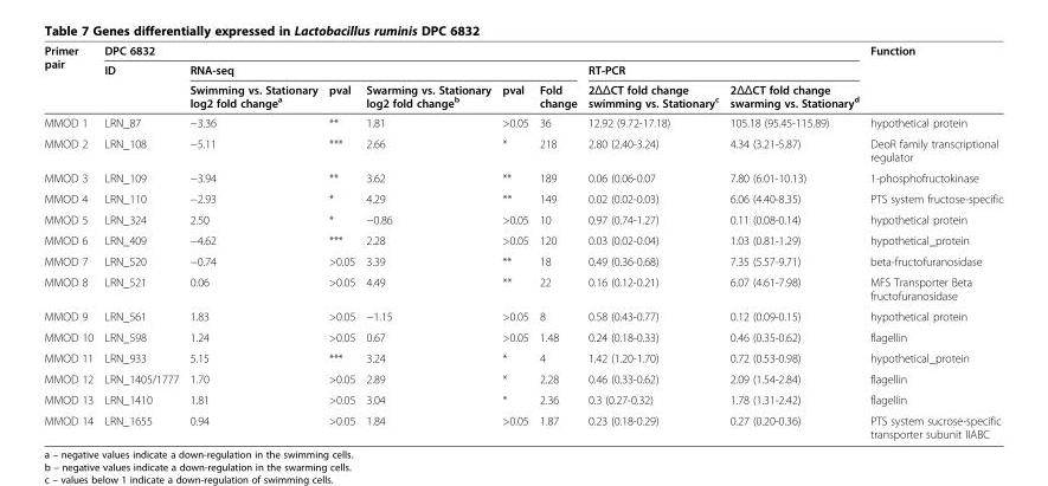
<table><thead><tr><td rowspan="3">Primer pair</td><td colspan="8">DPC 6832</td><td rowspan="3">Function</td></tr><tr><td rowspan="2">ID</td><td colspan="5">RNA-seq</td><td colspan="2">RT-PCR</td></tr><tr><td>Swimming vs. Stationary log2 fold change<sup>a</sup></td><td>pval</td><td>Swarming vs. Stationary log2 fold change<sup>b</sup></td><td>pval</td><td>Fold change</td><td>2ΔΔCT fold change swimming vs. Stationary<sup>c</sup></td><td>2ΔΔCT fold change swarming vs. Stationary<sup>d</sup></td></tr></thead><tbody><tr><td>MMOD 1</td><td>LRN_87</td><td>−3.36</td><td>**</td><td>1.81</td><td>&gt;0.05</td><td>36</td><td>12.92 (9.72-17.18)</td><td>105.18 (95.45-115.89)</td><td>hypothetical protein</td></tr><tr><td>MMOD 2</td><td>LRN_108</td><td>−5.11</td><td>***</td><td>2.66</td><td>*</td><td>218</td><td>2.80 (2.40-3.24)</td><td>4.34 (3.21-5.87)</td><td>DeoR family transcriptional regulator</td></tr><tr><td>MMOD 3</td><td>LRN_109</td><td>−3.94</td><td>**</td><td>3.62</td><td>**</td><td>189</td><td>0.06 (0.06-0.07</td><td>7.80 (6.01-10.13)</td><td>1-phosphofructokinase</td></tr><tr><td>MMOD 4</td><td>LRN_110</td><td>−2.93</td><td>*</td><td>4.29</td><td>**</td><td>149</td><td>0.02 (0.02-0.03)</td><td>6.06 (4.40-8.35)</td><td>PTS system fructose-specific</td></tr><tr><td>MMOD 5</td><td>LRN_324</td><td>2.50</td><td>*</td><td>−0.86</td><td>&gt;0.05</td><td>10</td><td>0.97 (0.74-1.27)</td><td>0.11 (0.08-0.14)</td><td>hypothetical protein</td></tr><tr><td>MMOD 6</td><td>LRN_409</td><td>−4.62</td><td>***</td><td>2.28</td><td>&gt;0.05</td><td>120</td><td>0.03 (0.02-0.04)</td><td>1.03 (0.81-1.29)</td><td>hypothetical_protein</td></tr><tr><td>MMOD 7</td><td>LRN_520</td><td>−0.74</td><td>&gt;0.05</td><td>3.39</td><td>**</td><td>18</td><td>0.49 (0.36-0.68)</td><td>7.35 (5.57-9.71)</td><td>beta-fructofuranosidase</td></tr><tr><td>MMOD 8</td><td>LRN_521</td><td>0.06</td><td>&gt;0.05</td><td>4.49</td><td>**</td><td>22</td><td>0.16 (0.12-0.21)</td><td>6.07 (4.61-7.98)</td><td>MFS Transporter Beta fructofuranosidase</td></tr><tr><td>MMOD 9</td><td>LRN_561</td><td>1.83</td><td>&gt;0.05</td><td>−1.15</td><td>&gt;0.05</td><td>8</td><td>0.58 (0.43-0.77)</td><td>0.12 (0.09-0.15)</td><td>hypothetical protein</td></tr><tr><td>MMOD 10</td><td>LRN_598</td><td>1.24</td><td>&gt;0.05</td><td>0.67</td><td>&gt;0.05</td><td>1.48</td><td>0.24 (0.18-0.33)</td><td>0.46 (0.35-0.62)</td><td>flagellin</td></tr><tr><td>MMOD 11</td><td>LRN_933</td><td>5.15</td><td>***</td><td>3.24</td><td>*</td><td>4</td><td>1.42 (1.20-1.70)</td><td>0.72 (0.53-0.98)</td><td>hypothetical_protein</td></tr><tr><td>MMOD 12</td><td>LRN_1405/1777</td><td>1.70</td><td>&gt;0.05</td><td>2.89</td><td>*</td><td>2.28</td><td>0.46 (0.33-0.62)</td><td>2.09 (1.54-2.84)</td><td>flagellin</td></tr><tr><td>MMOD 13</td><td>LRN_1410</td><td>1.81</td><td>&gt;0.05</td><td>3.04</td><td>*</td><td>2.36</td><td>0.3 (0.27-0.32)</td><td>1.78 (1.31-2.42)</td><td>flagellin</td></tr><tr><td>MMOD 14</td><td>LRN_1655</td><td>0.94</td><td>&gt;0.05</td><td>1.84</td><td>&gt;0.05</td><td>1.87</td><td>0.23 (0.18-0.29)</td><td>0.27 (0.20-0.36)</td><td>PTS system sucrose-specific transporter subunit IIABC</td></tr></tbody></table>